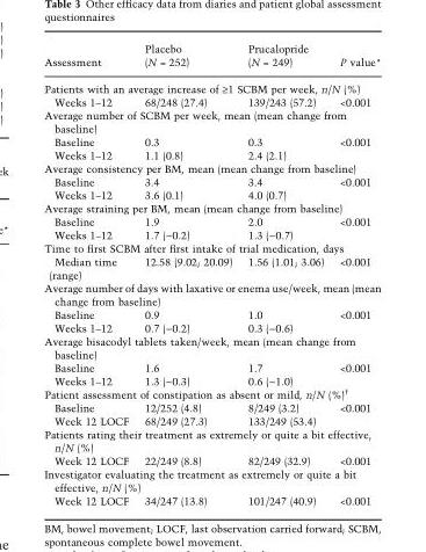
<table><thead><tr><td>Assessment</td><td>Placebo (N = 252)</td><td>Prucalopride (N = 249)</td><td>P value*</td></tr></thead><tbody><tr><td colspan="4">Patients with an average increase of ‡1 SCBM per week, n/N (%)</td></tr><tr><td>Weeks 1–12</td><td>68/248 (27.4)</td><td>139/243 (57.2)</td><td>&lt;0.001</td></tr><tr><td colspan="4">Average number of SCBM per week, mean (mean change from baseline)</td></tr><tr><td>Baseline</td><td>0.3</td><td>0.3</td><td>&lt;0.001</td></tr><tr><td>Weeks 1–12</td><td>1.1 (0.8)</td><td>2.4 (2.1)</td><td></td></tr><tr><td colspan="4">Average consistency per BM, mean (mean change from baseline)</td></tr><tr><td>Baseline</td><td>3.4</td><td>3.4</td><td>&lt;0.001</td></tr><tr><td>Weeks 1–12</td><td>3.6 (0.1)</td><td>4.0 (0.7)</td><td></td></tr><tr><td colspan="4">Average straining per BM, mean (mean change from baseline)</td></tr><tr><td>Baseline</td><td>1.9</td><td>2.0</td><td>&lt;0.001</td></tr><tr><td>Weeks 1–12</td><td>1.7 (−0.2)</td><td>1.3 (−0.7)</td><td></td></tr><tr><td colspan="4">Time to first SCBM after first intake of trial medication, days</td></tr><tr><td>Median time (range)</td><td>12.58 (9.02; 20.09)</td><td>1.56 (1.01; 3.06)</td><td>&lt;0.001</td></tr><tr><td colspan="4">Average number of days with laxative or enema use/week, mean (mean change from baseline)</td></tr><tr><td>Baseline</td><td>0.9</td><td>1.0</td><td>&lt;0.001</td></tr><tr><td>Weeks 1–12</td><td>0.7 (−0.2)</td><td>0.3 (−0.6)</td><td></td></tr><tr><td colspan="4">Average bisacodyl tablets taken/week, mean (mean change from baseline)</td></tr><tr><td>Baseline</td><td>1.6</td><td>1.7</td><td>&lt;0.001</td></tr><tr><td>Weeks 1–12</td><td>1.3 (−0.3)</td><td>0.6 (−1.0)</td><td></td></tr><tr><td colspan="4">Patient assessment of constipation as absent or mild, n/N (%)†</td></tr><tr><td>Baseline</td><td>12/252 (4.8)</td><td>8/249 (3.2)</td><td>&lt;0.001</td></tr><tr><td>Week 12 LOCF</td><td>68/249 (27.3)</td><td>133/249 (53.4)</td><td></td></tr><tr><td colspan="4">Patients rating their treatment as extremely or quite a bit effective, n/N (%)</td></tr><tr><td>Week 12 LOCF</td><td>22/249 (8.8)</td><td>82/249 (32.9)</td><td>&lt;0.001</td></tr><tr><td colspan="4">Investigator evaluating the treatment as extremely or quite a bit effective, n/N (%)</td></tr><tr><td>Week 12 LOCF</td><td>34/247 (13.8)</td><td>101/247 (40.9)</td><td>&lt;0.001</td></tr></tbody></table>